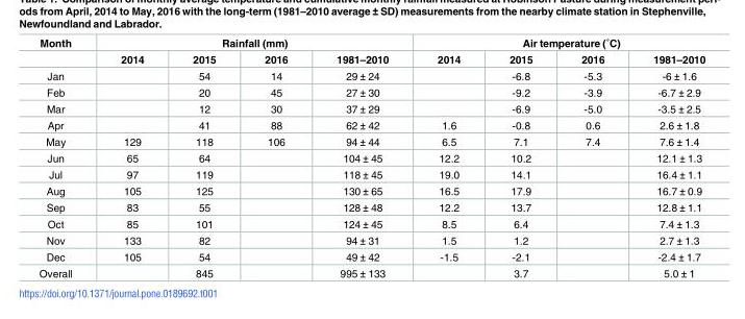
<table><thead><tr><td rowspan="2">Month</td><td colspan="4">Rainfall (mm)</td><td colspan="4">Air temperature (˚C)</td></tr><tr><td>2014</td><td>2015</td><td>2016</td><td>1981–2010</td><td>2014</td><td>2015</td><td>2016</td><td>1981–2010</td></tr></thead><tbody><tr><td>Jan</td><td></td><td>54</td><td>14</td><td>29 ± 24</td><td></td><td>-6.8</td><td>-5.3</td><td>-6 ± 1.6</td></tr><tr><td>Feb</td><td></td><td>20</td><td>45</td><td>27 ± 30</td><td></td><td>-9.2</td><td>-3.9</td><td>-6.7 ± 2.9</td></tr><tr><td>Mar</td><td></td><td>12</td><td>30</td><td>37 ± 29</td><td></td><td>-6.9</td><td>-5.0</td><td>-3.5 ± 2.5</td></tr><tr><td>Apr</td><td></td><td>41</td><td>88</td><td>62 ± 42</td><td>1.6</td><td>-0.8</td><td>0.6</td><td>2.6 ± 1.8</td></tr><tr><td>May</td><td>129</td><td>118</td><td>106</td><td>94 ± 44</td><td>6.5</td><td>7.1</td><td>7.4</td><td>7.6 ± 1.4</td></tr><tr><td>Jun</td><td>65</td><td>64</td><td></td><td>104 ± 45</td><td>12.2</td><td>10.2</td><td></td><td>12.1 ± 1.3</td></tr><tr><td>Jul</td><td>97</td><td>119</td><td></td><td>118 ± 45</td><td>19.0</td><td>14.1</td><td></td><td>16.4 ± 1.1</td></tr><tr><td>Aug</td><td>105</td><td>125</td><td></td><td>130 ± 65</td><td>16.5</td><td>17.9</td><td></td><td>16.7 ± 0.9</td></tr><tr><td>Sep</td><td>83</td><td>55</td><td></td><td>128 ± 48</td><td>12.2</td><td>13.7</td><td></td><td>12.8 ± 1.1</td></tr><tr><td>Oct</td><td>85</td><td>101</td><td></td><td>124 ± 45</td><td>8.5</td><td>6.4</td><td></td><td>7.4 ± 1.3</td></tr><tr><td>Nov</td><td>133</td><td>82</td><td></td><td>94 ± 31</td><td>1.5</td><td>1.2</td><td></td><td>2.7 ± 1.3</td></tr><tr><td>Dec</td><td>105</td><td>54</td><td></td><td>49 ± 42</td><td>-1.5</td><td>-2.1</td><td></td><td>-2.4 ± 1.7</td></tr><tr><td>Overall</td><td></td><td>845</td><td></td><td>995 ± 133</td><td></td><td>3.7</td><td></td><td>5.0 ± 1</td></tr></tbody></table>